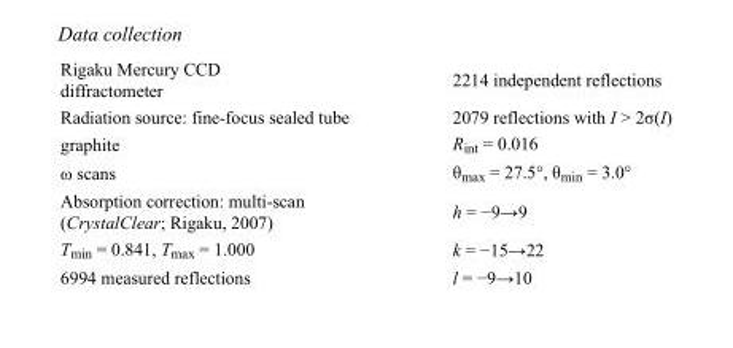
<table><tbody><tr><td>Rigaku Mercury CCD diffractometer</td><td>2214 independent reflections</td></tr><tr><td>Radiation source: fine-focus sealed tube</td><td>2079 reflections with I &gt; 2σ(I)</td></tr><tr><td>graphite</td><td>R<sub>int</sub> = 0.016</td></tr><tr><td>ω scans</td><td>θ<sub>max</sub> = 27.5°, θ<sub>min</sub> = 3.0°</td></tr><tr><td>Absorption correction: multi-scan (CrystalClear; Rigaku, 2007)</td><td>h = −9→9</td></tr><tr><td>T<sub>min</sub> = 0.841, T<sub>max</sub> = 1.000</td><td>k = −15→22</td></tr><tr><td>6994 measured reflections</td><td>l = −9→10</td></tr></tbody></table>